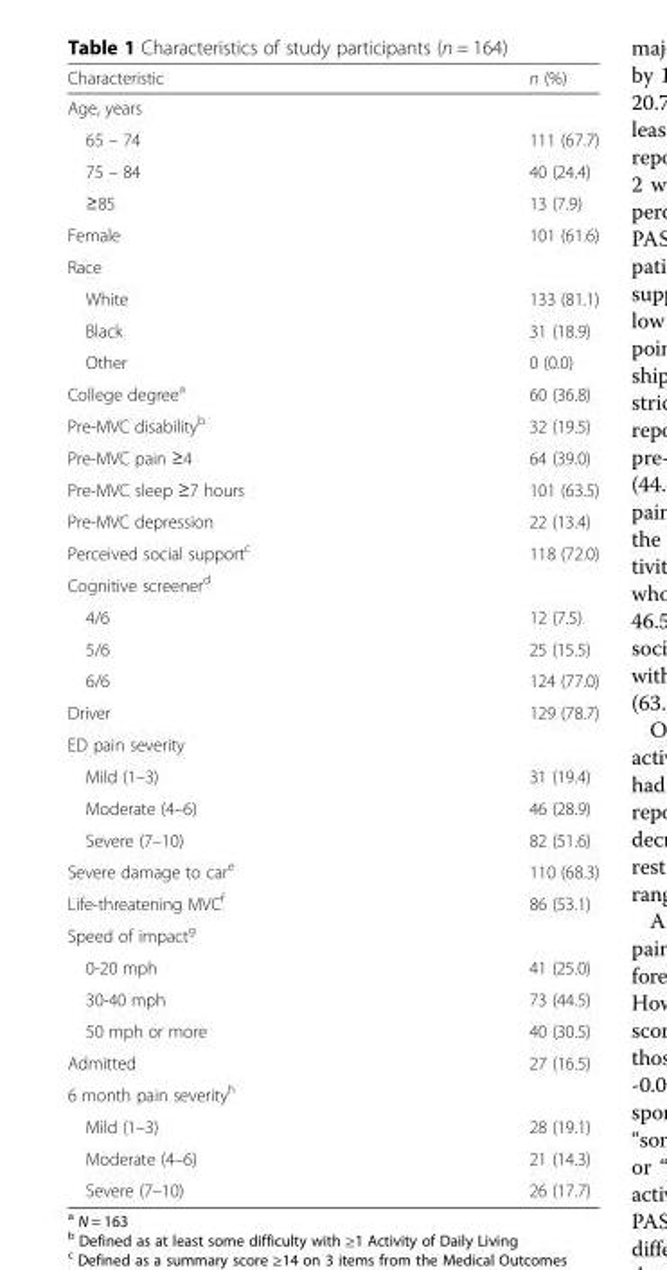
<table><thead><tr><td>Characteristic</td><td>n (%)</td></tr></thead><tbody><tr><td colspan="2">Age, years</td></tr><tr><td>65 – 74</td><td>111 (67.7)</td></tr><tr><td>75 – 84</td><td>40 (24.4)</td></tr><tr><td>≥85</td><td>13 (7.9)</td></tr><tr><td>Female</td><td>101 (61.6)</td></tr><tr><td colspan="2">Race</td></tr><tr><td>White</td><td>133 (81.1)</td></tr><tr><td>Black</td><td>31 (18.9)</td></tr><tr><td>Other</td><td>0 (0.0)</td></tr><tr><td>College degree<sup>a</sup></td><td>60 (36.8)</td></tr><tr><td>Pre-MVC disability<sup>b</sup></td><td>32 (19.5)</td></tr><tr><td>Pre-MVC pain ≥4</td><td>64 (39.0)</td></tr><tr><td>Pre-MVC sleep ≥7 hours</td><td>101 (63.5)</td></tr><tr><td>Pre-MVC depression</td><td>22 (13.4)</td></tr><tr><td>Perceived social support<sup>c</sup></td><td>118 (72.0)</td></tr><tr><td colspan="2">Cognitive screener<sup>d</sup></td></tr><tr><td>4/6</td><td>12 (7.5)</td></tr><tr><td>5/6</td><td>25 (15.5)</td></tr><tr><td>6/6</td><td>124 (77.0)</td></tr><tr><td>Driver</td><td>129 (78.7)</td></tr><tr><td colspan="2">ED pain severity</td></tr><tr><td>Mild (1–3)</td><td>31 (19.4)</td></tr><tr><td>Moderate (4–6)</td><td>46 (28.9)</td></tr><tr><td>Severe (7–10)</td><td>82 (51.6)</td></tr><tr><td>Severe damage to car<sup>e</sup></td><td>110 (68.3)</td></tr><tr><td>Life-threatening MVC<sup>f</sup></td><td>86 (53.1)</td></tr><tr><td colspan="2">Speed of impact<sup>g</sup></td></tr><tr><td>0-20 mph</td><td>41 (25.0)</td></tr><tr><td>30-40 mph</td><td>73 (44.5)</td></tr><tr><td>50 mph or more</td><td>40 (30.5)</td></tr><tr><td>Admitted</td><td>27 (16.5)</td></tr><tr><td colspan="2">6 month pain severity<sup>h</sup></td></tr><tr><td>Mild (1–3)</td><td>28 (19.1)</td></tr><tr><td>Moderate (4–6)</td><td>21 (14.3)</td></tr><tr><td>Severe (7–10)</td><td>26 (17.7)</td></tr></tbody></table>